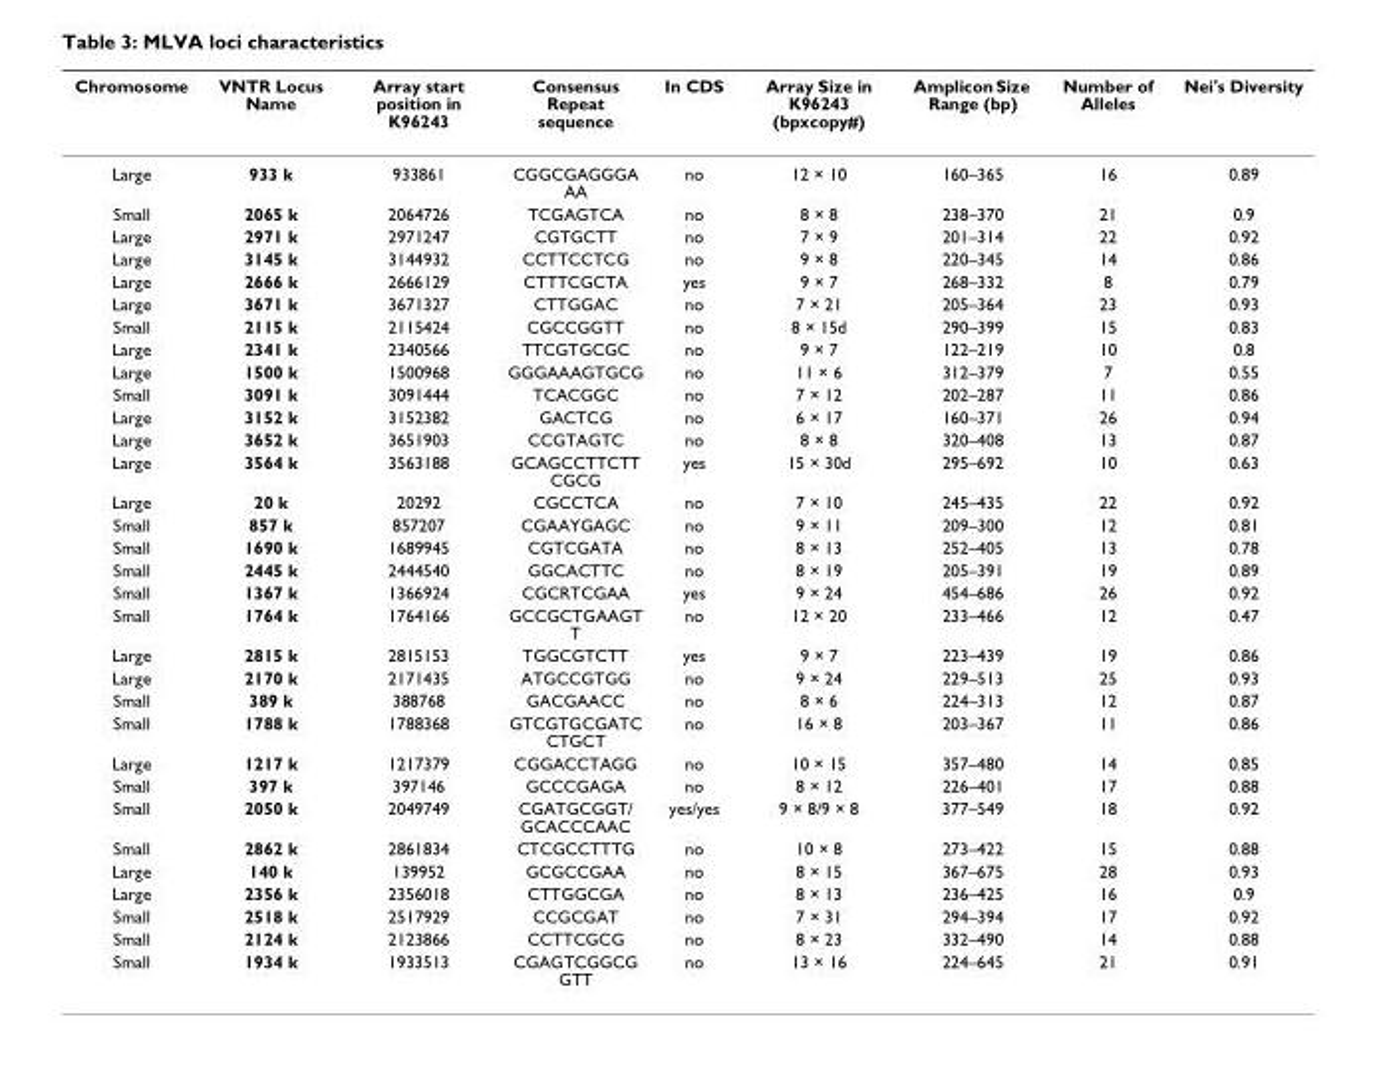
<table><thead><tr><td>Chromosome</td><td>VNTR Locus Name</td><td>Array start position in K96243</td><td>Consensus Repeat sequence</td><td>In CDS</td><td>Array Size in K96243 (bpxcopy#)</td><td>Amplicon Size Range (bp)</td><td>Number of Alleles</td><td>Nei&#x27;s Diversity</td></tr></thead><tbody><tr><td>Large</td><td>933 k</td><td>933861</td><td>CGGCGAGGGA AA</td><td>no</td><td>12 × 10</td><td>160–365</td><td>16</td><td>0.89</td></tr><tr><td>Small</td><td>2065 k</td><td>2064726</td><td>TCGAGTCA</td><td>no</td><td>8 × 8</td><td>238–370</td><td>21</td><td>0.9</td></tr><tr><td>Large</td><td>2971 k</td><td>2971247</td><td>CGTGCTT</td><td>no</td><td>7 × 9</td><td>201–314</td><td>22</td><td>0.92</td></tr><tr><td>Large</td><td>3145 k</td><td>3144932</td><td>CCTTCCTCG</td><td>no</td><td>9 × 8</td><td>220–345</td><td>14</td><td>0.86</td></tr><tr><td>Large</td><td>2666 k</td><td>2666129</td><td>CTTTCGCTA</td><td>yes</td><td>9 × 7</td><td>268–332</td><td>8</td><td>0.79</td></tr><tr><td>Large</td><td>3671 k</td><td>3671327</td><td>CTTGGAC</td><td>no</td><td>7 × 21</td><td>205–364</td><td>23</td><td>0.93</td></tr><tr><td>Small</td><td>2115 k</td><td>2115424</td><td>CGCCGGTT</td><td>no</td><td>8 × 15d</td><td>290–399</td><td>15</td><td>0.83</td></tr><tr><td>Large</td><td>2341 k</td><td>2340566</td><td>TTCGTGCGC</td><td>no</td><td>9 × 7</td><td>122–219</td><td>10</td><td>0.8</td></tr><tr><td>Large</td><td>1500 k</td><td>1500968</td><td>GGGAAAGTGCG</td><td>no</td><td>11 × 6</td><td>312–379</td><td>7</td><td>0.55</td></tr><tr><td>Small</td><td>3091 k</td><td>3091444</td><td>TCACGGC</td><td>no</td><td>7 × 12</td><td>202–287</td><td>11</td><td>0.86</td></tr><tr><td>Large</td><td>3152 k</td><td>3152382</td><td>GACTCG</td><td>no</td><td>6 × 17</td><td>160–371</td><td>26</td><td>0.94</td></tr><tr><td>Large</td><td>3652 k</td><td>3651903</td><td>CCGTAGTC</td><td>no</td><td>8 × 8</td><td>320–408</td><td>13</td><td>0.87</td></tr><tr><td>Large</td><td>3564 k</td><td>3563188</td><td>GCAGCCTTCTT CGCG</td><td>yes</td><td>15 × 30d</td><td>295–692</td><td>10</td><td>0.63</td></tr><tr><td>Large</td><td>20 k</td><td>20292</td><td>CGCCTCA</td><td>no</td><td>7 × 10</td><td>245–435</td><td>22</td><td>0.92</td></tr><tr><td>Small</td><td>857 k</td><td>857207</td><td>CGAAYGAGC</td><td>no</td><td>9 × 11</td><td>209–300</td><td>12</td><td>0.81</td></tr><tr><td>Small</td><td>1690 k</td><td>1689945</td><td>CGTCGATA</td><td>no</td><td>8 × 13</td><td>252–405</td><td>13</td><td>0.78</td></tr><tr><td>Small</td><td>2445 k</td><td>2444540</td><td>GGCACTTC</td><td>no</td><td>8 × 19</td><td>205–391</td><td>19</td><td>0.89</td></tr><tr><td>Small</td><td>1367 k</td><td>1366924</td><td>CGCRTCGAA</td><td>yes</td><td>9 × 24</td><td>454–686</td><td>26</td><td>0.92</td></tr><tr><td>Small</td><td>1764 k</td><td>1764166</td><td>GCCGCTGAAGT T</td><td>no</td><td>12 × 20</td><td>233–466</td><td>12</td><td>0.47</td></tr><tr><td>Large</td><td>2815 k</td><td>2815153</td><td>TGGCGTCTT</td><td>yes</td><td>9 × 7</td><td>223–439</td><td>19</td><td>0.86</td></tr><tr><td>Large</td><td>2170 k</td><td>2171435</td><td>ATGCCGTGG</td><td>no</td><td>9 × 24</td><td>229–513</td><td>25</td><td>0.93</td></tr><tr><td>Small</td><td>389 k</td><td>388768</td><td>GACGAACC</td><td>no</td><td>8 × 6</td><td>224–313</td><td>12</td><td>0.87</td></tr><tr><td>Small</td><td>1788 k</td><td>1788368</td><td>GTCGTGCGATC CTGCT</td><td>no</td><td>16 × 8</td><td>203–367</td><td>11</td><td>0.86</td></tr><tr><td>Large</td><td>1217 k</td><td>1217379</td><td>CGGACCTAGG</td><td>no</td><td>10 × 15</td><td>357–480</td><td>14</td><td>0.85</td></tr><tr><td>Small</td><td>397 k</td><td>397146</td><td>GCCCGAGA</td><td>no</td><td>8 × 12</td><td>226–401</td><td>17</td><td>0.88</td></tr><tr><td>Small</td><td>2050 k</td><td>2049749</td><td>CGATGCGGT/ GCACCCAAC</td><td>yes/yes</td><td>9 × 8/9 × 8</td><td>377–549</td><td>18</td><td>0.92</td></tr><tr><td>Small</td><td>2862 k</td><td>2861834</td><td>CTCGCCTTTG</td><td>no</td><td>10 × 8</td><td>273–422</td><td>15</td><td>0.88</td></tr><tr><td>Large</td><td>140 k</td><td>139952</td><td>GCGCCGAA</td><td>no</td><td>8 × 15</td><td>367–675</td><td>28</td><td>0.93</td></tr><tr><td>Large</td><td>2356 k</td><td>2356018</td><td>CTTGGCGA</td><td>no</td><td>8 × 13</td><td>236–425</td><td>16</td><td>0.9</td></tr><tr><td>Small</td><td>2518 k</td><td>2517929</td><td>CCGCGAT</td><td>no</td><td>7 × 31</td><td>294–394</td><td>17</td><td>0.92</td></tr><tr><td>Small</td><td>2124 k</td><td>2123866</td><td>CCTTCGCG</td><td>no</td><td>8 × 23</td><td>332–490</td><td>14</td><td>0.88</td></tr><tr><td>Small</td><td>1934 k</td><td>1933513</td><td>CGAGTCGGCG GTT</td><td>no</td><td>13 × 16</td><td>224–645</td><td>21</td><td>0.91</td></tr></tbody></table>